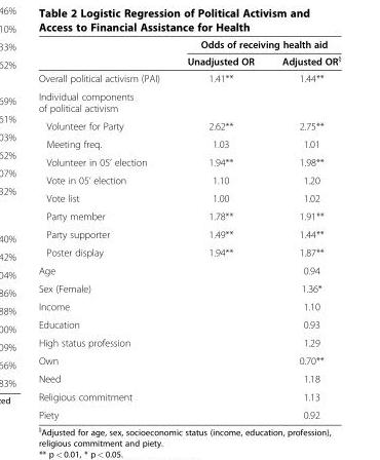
<table><thead><tr><td rowspan="2"></td><td colspan="2">Odds of receiving health aid</td></tr><tr><td>Unadjusted OR</td><td>Adjusted OR<sup>§</sup></td></tr></thead><tbody><tr><td>Overall political activism (PAI)</td><td>1.41**</td><td>1.44**</td></tr><tr><td colspan="3">Individual components of political activism</td></tr><tr><td>Volunteer for Party</td><td>2.62**</td><td>2.75**</td></tr><tr><td>Meeting freq.</td><td>1.03</td><td>1.01</td></tr><tr><td>Volunteer in 05’ election</td><td>1.94**</td><td>1.98**</td></tr><tr><td>Vote in 05’ election</td><td>1.10</td><td>1.20</td></tr><tr><td>Vote list</td><td>1.00</td><td>1.02</td></tr><tr><td>Party member</td><td>1.78**</td><td>1.91**</td></tr><tr><td>Party supporter</td><td>1.49**</td><td>1.44**</td></tr><tr><td>Poster display</td><td>1.94**</td><td>1.87**</td></tr><tr><td>Age</td><td></td><td>0.94</td></tr><tr><td>Sex (Female)</td><td></td><td>1.36*</td></tr><tr><td>Income</td><td></td><td>1.10</td></tr><tr><td>Education</td><td></td><td>0.93</td></tr><tr><td>High status profession</td><td></td><td>1.29</td></tr><tr><td>Own</td><td></td><td>0.70**</td></tr><tr><td>Need</td><td></td><td>1.18</td></tr><tr><td>Religious commitment</td><td></td><td>1.13</td></tr><tr><td>Piety</td><td></td><td>0.92</td></tr></tbody></table>